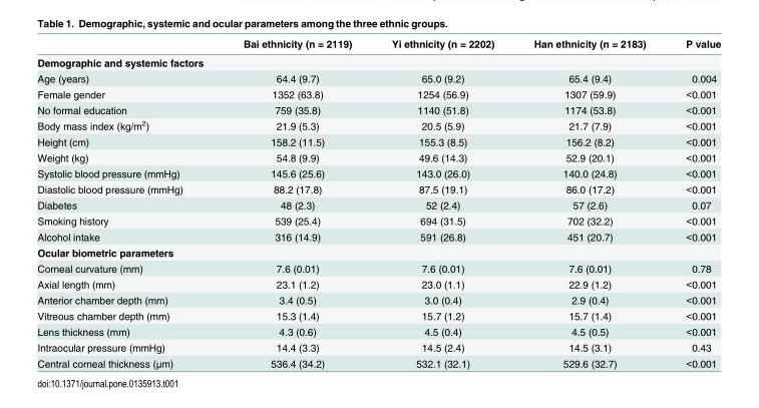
<table><thead><tr><td></td><td>Bai ethnicity (n = 2119)</td><td>Yi ethnicity (n = 2202)</td><td>Han ethnicity (n = 2183)</td><td>P value</td></tr></thead><tbody><tr><td colspan="5">Demographic and systemic factors</td></tr><tr><td>Age (years)</td><td>64.4 (9.7)</td><td>65.0 (9.2)</td><td>65.4 (9.4)</td><td>0.004</td></tr><tr><td>Female gender</td><td>1352 (63.8)</td><td>1254 (56.9)</td><td>1307 (59.9)</td><td>&lt;0.001</td></tr><tr><td>No formal education</td><td>759 (35.8)</td><td>1140 (51.8)</td><td>1174 (53.8)</td><td>&lt;0.001</td></tr><tr><td>Body mass index (kg/m<sup>2</sup>)</td><td>21.9 (5.3)</td><td>20.5 (5.9)</td><td>21.7 (7.9)</td><td>&lt;0.001</td></tr><tr><td>Height (cm)</td><td>158.2 (11.5)</td><td>155.3 (8.5)</td><td>156.2 (8.2)</td><td>&lt;0.001</td></tr><tr><td>Weight (kg)</td><td>54.8 (9.9)</td><td>49.6 (14.3)</td><td>52.9 (20.1)</td><td>&lt;0.001</td></tr><tr><td>Systolic blood pressure (mmHg)</td><td>145.6 (25.6)</td><td>143.0 (26.0)</td><td>140.0 (24.8)</td><td>&lt;0.001</td></tr><tr><td>Diastolic blood pressure (mmHg)</td><td>88.2 (17.8)</td><td>87.5 (19.1)</td><td>86.0 (17.2)</td><td>&lt;0.001</td></tr><tr><td>Diabetes</td><td>48 (2.3)</td><td>52 (2.4)</td><td>57 (2.6)</td><td>0.07</td></tr><tr><td>Smoking history</td><td>539 (25.4)</td><td>694 (31.5)</td><td>702 (32.2)</td><td>&lt;0.001</td></tr><tr><td>Alcohol intake</td><td>316 (14.9)</td><td>591 (26.8)</td><td>451 (20.7)</td><td>&lt;0.001</td></tr><tr><td colspan="5">Ocular biometric parameters</td></tr><tr><td>Corneal curvature (mm)</td><td>7.6 (0.01)</td><td>7.6 (0.01)</td><td>7.6 (0.01)</td><td>0.78</td></tr><tr><td>Axial length (mm)</td><td>23.1 (1.2)</td><td>23.0 (1.1)</td><td>22.9 (1.2)</td><td>&lt;0.001</td></tr><tr><td>Anterior chamber depth (mm)</td><td>3.4 (0.5)</td><td>3.0 (0.4)</td><td>2.9 (0.4)</td><td>&lt;0.001</td></tr><tr><td>Vitreous chamber depth (mm)</td><td>15.3 (1.4)</td><td>15.7 (1.2)</td><td>15.7 (1.4)</td><td>&lt;0.001</td></tr><tr><td>Lens thickness (mm)</td><td>4.3 (0.6)</td><td>4.5 (0.4)</td><td>4.5 (0.5)</td><td>&lt;0.001</td></tr><tr><td>Intraocular pressure (mmHg)</td><td>14.4 (3.3)</td><td>14.5 (2.4)</td><td>14.5 (3.1)</td><td>0.43</td></tr><tr><td>Central corneal thickness (μm)</td><td>536.4 (34.2)</td><td>532.1 (32.1)</td><td>529.6 (32.7)</td><td>&lt;0.001</td></tr></tbody></table>